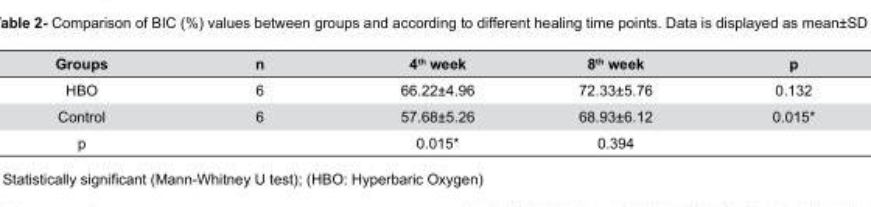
<table><thead><tr><td>Groups</td><td>n</td><td>4<sup>th</sup> week</td><td>8<sup>th</sup> week</td><td>p</td></tr></thead><tbody><tr><td>HBO</td><td>6</td><td>66.22±4.96</td><td>72.33±5.76</td><td>0.132</td></tr><tr><td>Control</td><td>6</td><td>57.68±5.26</td><td>68.93±6.12</td><td>0.015*</td></tr><tr><td>p</td><td></td><td>0.015*</td><td>0.394</td><td></td></tr></tbody></table>